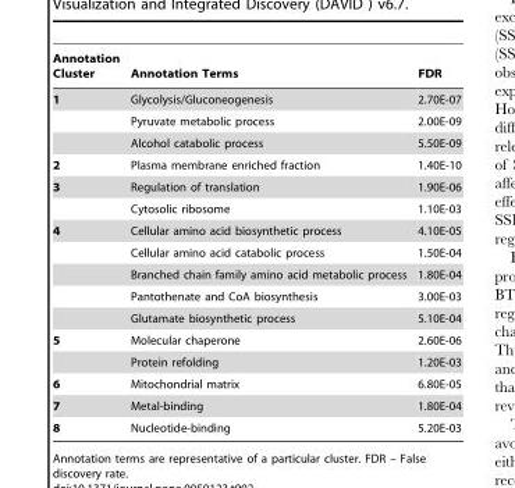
<table><thead><tr><td>Annotation Cluster</td><td>Annotation Terms</td><td>FDR</td></tr></thead><tbody><tr><td rowspan="3">1</td><td>Glycolysis/Gluconeogenesis</td><td>2.70E-07</td></tr><tr><td>Pyruvate metabolic process</td><td>2.00E-09</td></tr><tr><td>Alcohol catabolic process</td><td>5.50E-09</td></tr><tr><td>2</td><td>Plasma membrane enriched fraction</td><td>1.40E-10</td></tr><tr><td rowspan="2">3</td><td>Regulation of translation</td><td>1.90E-06</td></tr><tr><td>Cytosolic ribosome</td><td>1.10E-03</td></tr><tr><td rowspan="5">4</td><td>Cellular amino acid biosynthetic process</td><td>4.10E-05</td></tr><tr><td>Cellular amino acid catabolic process</td><td>1.50E-04</td></tr><tr><td>Branched chain family amino acid metabolic process</td><td>1.80E-04</td></tr><tr><td>Pantothenate and CoA biosynthesis</td><td>3.00E-03</td></tr><tr><td>Glutamate biosynthetic process</td><td>5.10E-04</td></tr><tr><td rowspan="2">5</td><td>Molecular chaperone</td><td>2.60E-06</td></tr><tr><td>Protein refolding</td><td>1.20E-03</td></tr><tr><td>6</td><td>Mitochondrial matrix</td><td>6.80E-05</td></tr><tr><td>7</td><td>Metal-binding</td><td>1.80E-04</td></tr><tr><td>8</td><td>Nucleotide-binding</td><td>5.20E-03</td></tr></tbody></table>